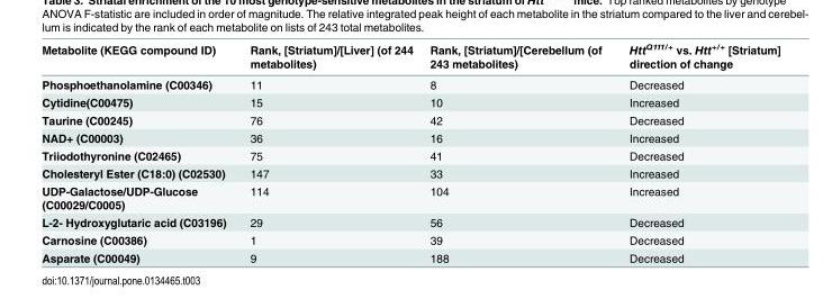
<table><thead><tr><td>Metabolite (KEGG compound ID)</td><td>Rank, [Striatum]/[Liver] (of 244 metabolites)</td><td>Rank, [Striatum]/[Cerebellum (of 243 metabolites)</td><td>Htt<sup>Q111/+</sup> vs. Htt<sup>+/+</sup> [Striatum] direction of change</td></tr></thead><tbody><tr><td>Phosphoethanolamine (C00346)</td><td>11</td><td>8</td><td>Decreased</td></tr><tr><td>Cytidine(C00475)</td><td>15</td><td>10</td><td>Increased</td></tr><tr><td>Taurine (C00245)</td><td>76</td><td>42</td><td>Decreased</td></tr><tr><td>NAD+ (C00003)</td><td>36</td><td>16</td><td>Increased</td></tr><tr><td>Triiodothyronine (C02465)</td><td>75</td><td>41</td><td>Decreased</td></tr><tr><td>Cholesteryl Ester (C18:0) (C02530)</td><td>147</td><td>33</td><td>Increased</td></tr><tr><td>UDP-Galactose/UDP-Glucose (C00029/C0005)</td><td>114</td><td>104</td><td>Increased</td></tr><tr><td>L-2- Hydroxyglutaric acid (C03196)</td><td>29</td><td>56</td><td>Decreased</td></tr><tr><td>Carnosine (C00386)</td><td>1</td><td>39</td><td>Decreased</td></tr><tr><td>Asparate (C00049)</td><td>9</td><td>188</td><td>Decreased</td></tr></tbody></table>